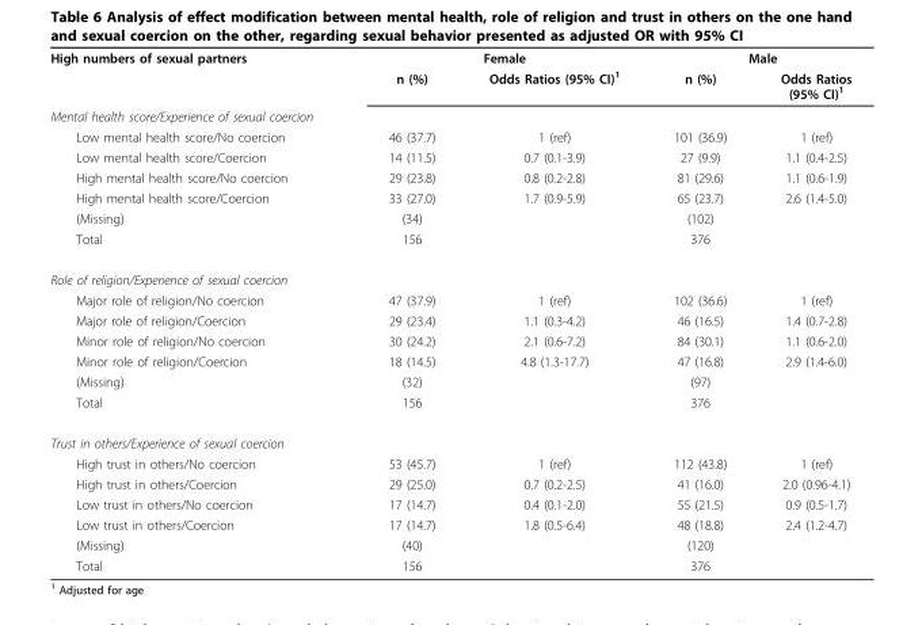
<table><tbody><tr><td rowspan="2">High numbers of sexual partners</td><td colspan="2">Female</td><td colspan="2">Male</td></tr><tr><td>n (%)</td><td>Odds Ratios (95% CI)<sup>1</sup></td><td>n (%)</td><td>Odds Ratios (95% CI)<sup>1</sup></td></tr><tr><td colspan="5">Mental health score/Experience of sexual coercion</td></tr><tr><td>Low mental health score/No coercion</td><td>46 (37.7)</td><td>1 (ref)</td><td>101 (36.9)</td><td>1 (ref)</td></tr><tr><td>Low mental health score/Coercion</td><td>14 (11.5)</td><td>0.7 (0.1-3.9)</td><td>27 (9.9)</td><td>1.1 (0.4-2.5)</td></tr><tr><td>High mental health score/No coercion</td><td>29 (23.8)</td><td>0.8 (0.2-2.8)</td><td>81 (29.6)</td><td>1.1 (0.6-1.9)</td></tr><tr><td>High mental health score/Coercion</td><td>33 (27.0)</td><td>1.7 (0.9-5.9)</td><td>65 (23.7)</td><td>2.6 (1.4-5.0)</td></tr><tr><td>(Missing)</td><td>(34)</td><td></td><td>(102)</td><td></td></tr><tr><td>Total</td><td>156</td><td></td><td>376</td><td></td></tr><tr><td colspan="5">Role of religion/Experience of sexual coercion</td></tr><tr><td>Major role of religion/No coercion</td><td>47 (37.9)</td><td>1 (ref)</td><td>102 (36.6)</td><td>1 (ref)</td></tr><tr><td>Major role of religion/Coercion</td><td>29 (23.4)</td><td>1.1 (0.3-4.2)</td><td>46 (16.5)</td><td>1.4 (0.7-2.8)</td></tr><tr><td>Minor role of religion/No coercion</td><td>30 (24.2)</td><td>2.1 (0.6-7.2)</td><td>84 (30.1)</td><td>1.1 (0.6-2.0)</td></tr><tr><td>Minor role of religion/Coercion</td><td>18 (14.5)</td><td>4.8 (1.3-17.7)</td><td>47 (16.8)</td><td>2.9 (1.4-6.0)</td></tr><tr><td>(Missing)</td><td>(32)</td><td></td><td>(97)</td><td></td></tr><tr><td>Total</td><td>156</td><td></td><td>376</td><td></td></tr><tr><td colspan="5">Trust in others/Experience of sexual coercion</td></tr><tr><td>High trust in others/No coercion</td><td>53 (45.7)</td><td>1 (ref)</td><td>112 (43.8)</td><td>1 (ref)</td></tr><tr><td>High trust in others/Coercion</td><td>29 (25.0)</td><td>0.7 (0.2-2.5)</td><td>41 (16.0)</td><td>2.0 (0.96-4.1)</td></tr><tr><td>Low trust in others/No coercion</td><td>17 (14.7)</td><td>0.4 (0.1-2.0)</td><td>55 (21.5)</td><td>0.9 (0.5-1.7)</td></tr><tr><td>Low trust in others/Coercion</td><td>17 (14.7)</td><td>1.8 (0.5-6.4)</td><td>48 (18.8)</td><td>2.4 (1.2-4.7)</td></tr><tr><td>(Missing)</td><td>(40)</td><td></td><td>(120)</td><td></td></tr><tr><td>Total</td><td>156</td><td></td><td>376</td><td></td></tr></tbody></table>